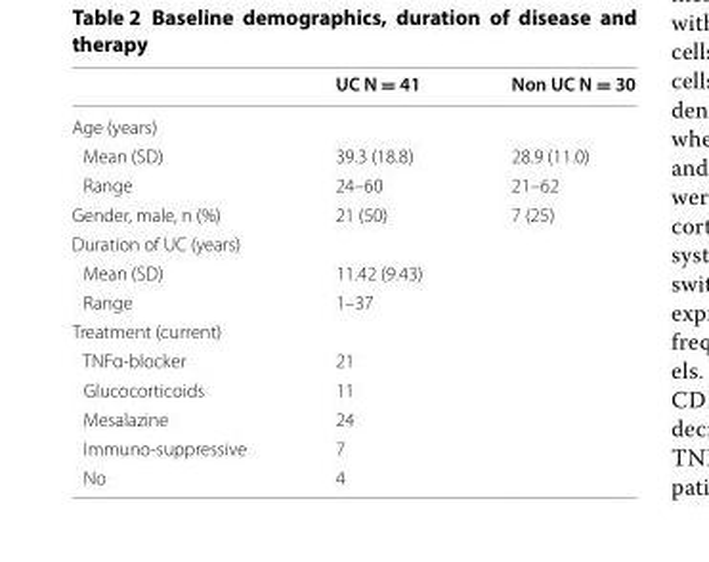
<table><thead><tr><td></td><td>UC N = 41</td><td>Non UC N = 30</td></tr></thead><tbody><tr><td colspan="3">Age (years)</td></tr><tr><td>Mean (SD)</td><td>39.3 (18.8)</td><td>28.9 (11.0)</td></tr><tr><td>Range</td><td>24–60</td><td>21–62</td></tr><tr><td>Gender, male, n (%)</td><td>21 (50)</td><td>7 (25)</td></tr><tr><td colspan="3">Duration of UC (years)</td></tr><tr><td>Mean (SD)</td><td>11.42 (9.43)</td><td></td></tr><tr><td>Range</td><td>1–37</td><td></td></tr><tr><td colspan="3">Treatment (current)</td></tr><tr><td>TNFα-blocker</td><td>21</td><td></td></tr><tr><td>Glucocorticoids</td><td>11</td><td></td></tr><tr><td>Mesalazine</td><td>24</td><td></td></tr><tr><td>Immuno-suppressive</td><td>7</td><td></td></tr><tr><td>No</td><td>4</td><td></td></tr></tbody></table>